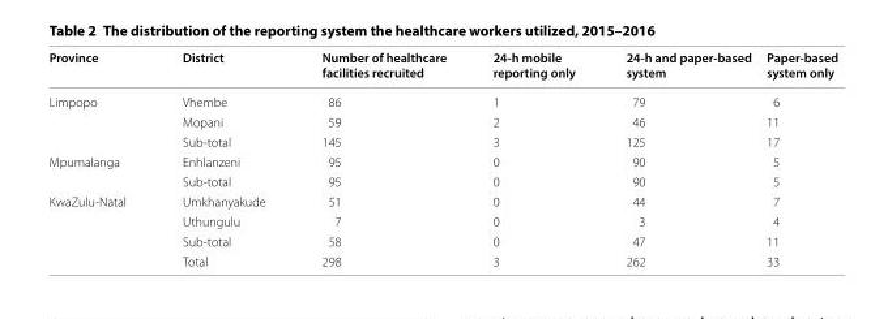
<table><thead><tr><td>Province</td><td>District</td><td>Number of healthcare facilities recruited</td><td>24‑h mobile reporting only</td><td>24‑h and paper‑based system</td><td>Paper‑based system only</td></tr></thead><tbody><tr><td rowspan="3">Limpopo</td><td>Vhembe</td><td>86</td><td>1</td><td>79</td><td>6</td></tr><tr><td>Mopani</td><td>59</td><td>2</td><td>46</td><td>11</td></tr><tr><td>Sub-total</td><td>145</td><td>3</td><td>125</td><td>17</td></tr><tr><td rowspan="2">Mpumalanga</td><td>Enhlanzeni</td><td>95</td><td>0</td><td>90</td><td>5</td></tr><tr><td>Sub-total</td><td>95</td><td>0</td><td>90</td><td>5</td></tr><tr><td rowspan="4">KwaZulu-Natal</td><td>Umkhanyakude</td><td>51</td><td>0</td><td>44</td><td>7</td></tr><tr><td>Uthungulu</td><td>7</td><td>0</td><td>3</td><td>4</td></tr><tr><td>Sub-total</td><td>58</td><td>0</td><td>47</td><td>11</td></tr><tr><td>Total</td><td>298</td><td>3</td><td>262</td><td>33</td></tr></tbody></table>